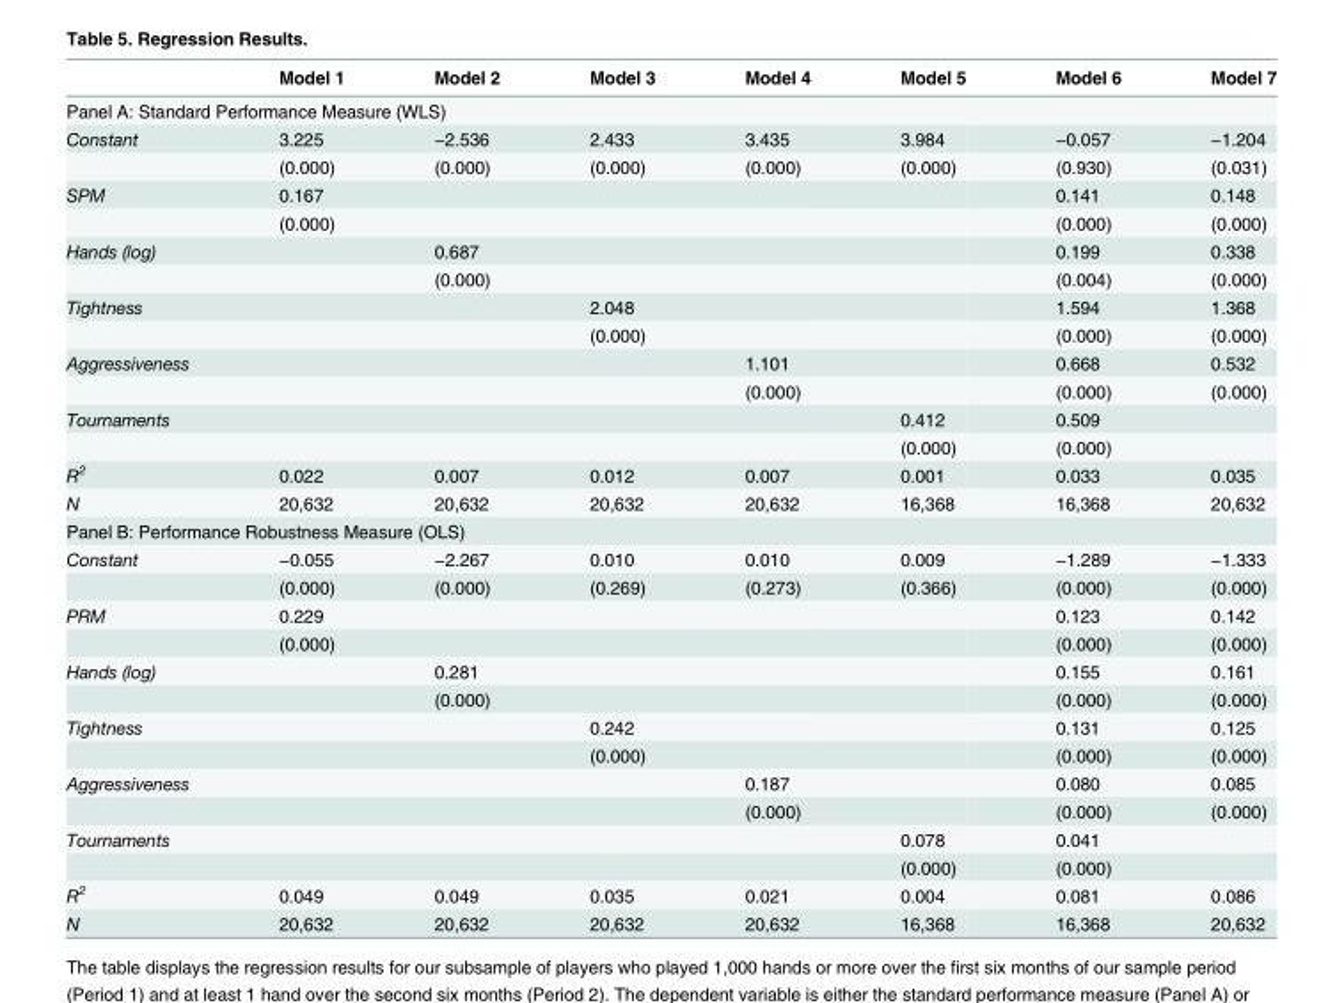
<table><thead><tr><td></td><td>Model 1</td><td>Model 2</td><td>Model 3</td><td>Model 4</td><td>Model 5</td><td>Model 6</td><td>Model 7</td></tr></thead><tbody><tr><td colspan="8">Panel A: Standard Performance Measure (WLS)</td></tr><tr><td rowspan="2">Constant</td><td>3.225</td><td>−2.536</td><td>2.433</td><td>3.435</td><td>3.984</td><td>−0.057</td><td>−1.204</td></tr><tr><td>(0.000)</td><td>(0.000)</td><td>(0.000)</td><td>(0.000)</td><td>(0.000)</td><td>(0.930)</td><td>(0.031)</td></tr><tr><td rowspan="2">SPM</td><td>0.167</td><td></td><td></td><td></td><td></td><td>0.141</td><td>0.148</td></tr><tr><td>(0.000)</td><td></td><td></td><td></td><td></td><td>(0.000)</td><td>(0.000)</td></tr><tr><td rowspan="2">Hands (log)</td><td></td><td>0.687</td><td></td><td></td><td></td><td>0.199</td><td>0.338</td></tr><tr><td></td><td>(0.000)</td><td></td><td></td><td></td><td>(0.004)</td><td>(0.000)</td></tr><tr><td rowspan="2">Tightness</td><td></td><td></td><td>2.048</td><td></td><td></td><td>1.594</td><td>1.368</td></tr><tr><td></td><td></td><td>(0.000)</td><td></td><td></td><td>(0.000)</td><td>(0.000)</td></tr><tr><td rowspan="2">Aggressiveness</td><td></td><td></td><td></td><td>1.101</td><td></td><td>0.668</td><td>0.532</td></tr><tr><td></td><td></td><td></td><td>(0.000)</td><td></td><td>(0.000)</td><td>(0.000)</td></tr><tr><td rowspan="2">Tournaments</td><td></td><td></td><td></td><td></td><td>0.412</td><td>0.509</td><td></td></tr><tr><td></td><td></td><td></td><td></td><td>(0.000)</td><td>(0.000)</td><td></td></tr><tr><td>R<sup>2</sup></td><td>0.022</td><td>0.007</td><td>0.012</td><td>0.007</td><td>0.001</td><td>0.033</td><td>0.035</td></tr><tr><td>N</td><td>20,632</td><td>20,632</td><td>20,632</td><td>20,632</td><td>16,368</td><td>16,368</td><td>20,632</td></tr><tr><td colspan="8">Panel B: Performance Robustness Measure (OLS)</td></tr><tr><td rowspan="2">Constant</td><td>−0.055</td><td>−2.267</td><td>0.010</td><td>0.010</td><td>0.009</td><td>−1.289</td><td>−1.333</td></tr><tr><td>(0.000)</td><td>(0.000)</td><td>(0.269)</td><td>(0.273)</td><td>(0.366)</td><td>(0.000)</td><td>(0.000)</td></tr><tr><td rowspan="2">PRM</td><td>0.229</td><td></td><td></td><td></td><td></td><td>0.123</td><td>0.142</td></tr><tr><td>(0.000)</td><td></td><td></td><td></td><td></td><td>(0.000)</td><td>(0.000)</td></tr><tr><td rowspan="2">Hands (log)</td><td></td><td>0.281</td><td></td><td></td><td></td><td>0.155</td><td>0.161</td></tr><tr><td></td><td>(0.000)</td><td></td><td></td><td></td><td>(0.000)</td><td>(0.000)</td></tr><tr><td rowspan="2">Tightness</td><td></td><td></td><td>0.242</td><td></td><td></td><td>0.131</td><td>0.125</td></tr><tr><td></td><td></td><td>(0.000)</td><td></td><td></td><td>(0.000)</td><td>(0.000)</td></tr><tr><td rowspan="2">Aggressiveness</td><td></td><td></td><td></td><td>0.187</td><td></td><td>0.080</td><td>0.085</td></tr><tr><td></td><td></td><td></td><td>(0.000)</td><td></td><td>(0.000)</td><td>(0.000)</td></tr><tr><td rowspan="2">Tournaments</td><td></td><td></td><td></td><td></td><td>0.078</td><td>0.041</td><td></td></tr><tr><td></td><td></td><td></td><td></td><td>(0.000)</td><td>(0.000)</td><td></td></tr><tr><td>R<sup>2</sup></td><td>0.049</td><td>0.049</td><td>0.035</td><td>0.021</td><td>0.004</td><td>0.081</td><td>0.086</td></tr><tr><td>N</td><td>20,632</td><td>20,632</td><td>20,632</td><td>20,632</td><td>16,368</td><td>16,368</td><td>20,632</td></tr></tbody></table>